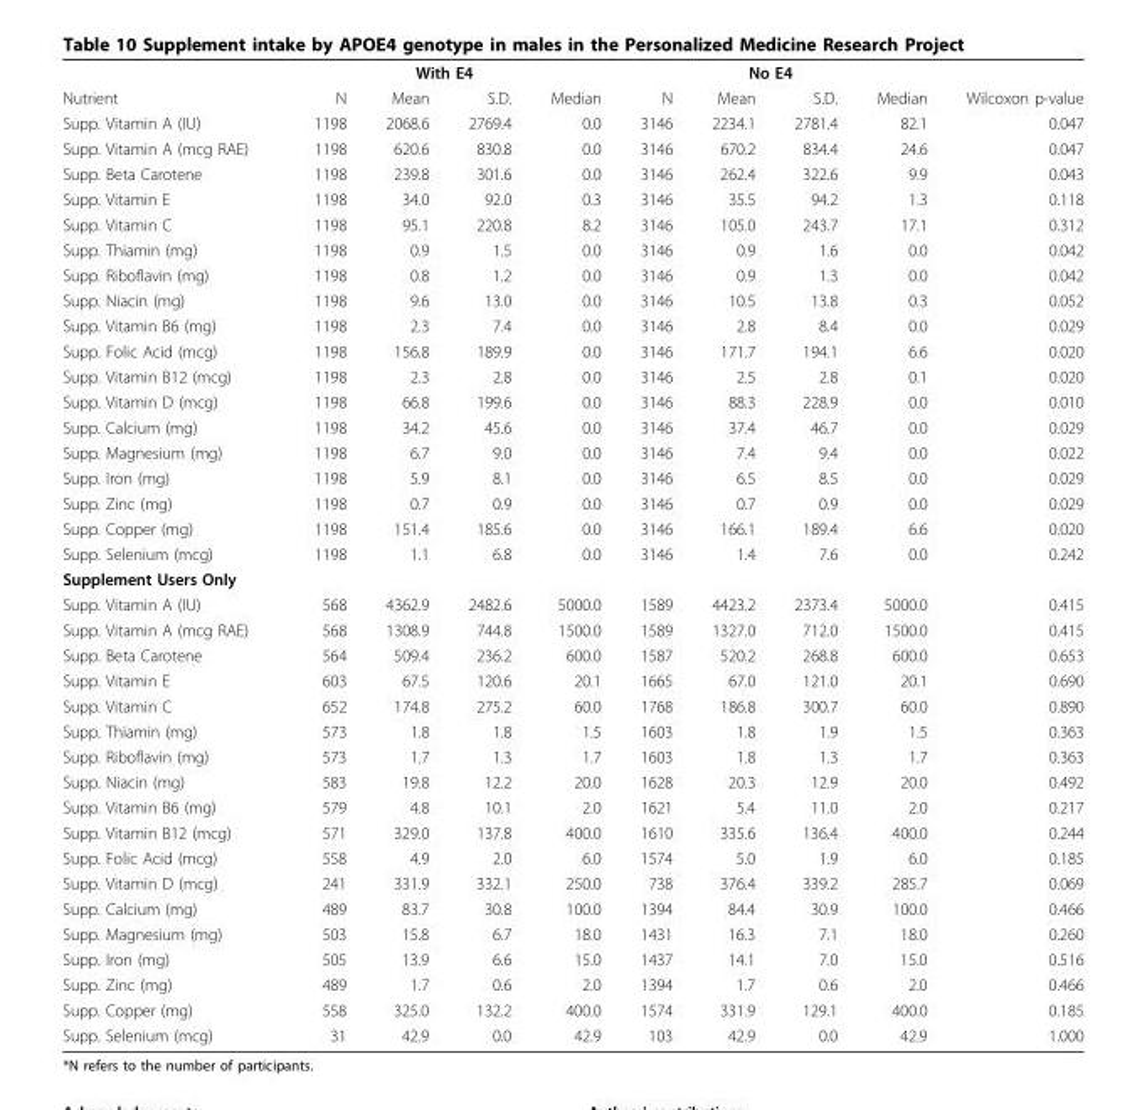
<table><thead><tr><td rowspan="2">Nutrient</td><td colspan="4">With E4</td><td colspan="4">No E4</td><td rowspan="2">Wilcoxon p-value</td></tr><tr><td>N</td><td>Mean</td><td>S.D.</td><td>Median</td><td>N</td><td>Mean</td><td>S.D.</td><td>Median</td></tr></thead><tbody><tr><td>Supp. Vitamin A (IU)</td><td>1198</td><td>2068.6</td><td>2769.4</td><td>0.0</td><td>3146</td><td>2234.1</td><td>2781.4</td><td>82.1</td><td>0.047</td></tr><tr><td>Supp. Vitamin A (mcg RAE)</td><td>1198</td><td>620.6</td><td>830.8</td><td>0.0</td><td>3146</td><td>670.2</td><td>834.4</td><td>24.6</td><td>0.047</td></tr><tr><td>Supp. Beta Carotene</td><td>1198</td><td>239.8</td><td>301.6</td><td>0.0</td><td>3146</td><td>262.4</td><td>322.6</td><td>9.9</td><td>0.043</td></tr><tr><td>Supp. Vitamin E</td><td>1198</td><td>34.0</td><td>92.0</td><td>0.3</td><td>3146</td><td>35.5</td><td>94.2</td><td>1.3</td><td>0.118</td></tr><tr><td>Supp. Vitamin C</td><td>1198</td><td>95.1</td><td>220.8</td><td>8.2</td><td>3146</td><td>105.0</td><td>243.7</td><td>17.1</td><td>0.312</td></tr><tr><td>Supp. Thiamin (mg)</td><td>1198</td><td>0.9</td><td>1.5</td><td>0.0</td><td>3146</td><td>0.9</td><td>1.6</td><td>0.0</td><td>0.042</td></tr><tr><td>Supp. Riboflavin (mg)</td><td>1198</td><td>0.8</td><td>1.2</td><td>0.0</td><td>3146</td><td>0.9</td><td>1.3</td><td>0.0</td><td>0.042</td></tr><tr><td>Supp. Niacin (mg)</td><td>1198</td><td>9.6</td><td>13.0</td><td>0.0</td><td>3146</td><td>10.5</td><td>13.8</td><td>0.3</td><td>0.052</td></tr><tr><td>Supp. Vitamin B6 (mg)</td><td>1198</td><td>2.3</td><td>7.4</td><td>0.0</td><td>3146</td><td>2.8</td><td>8.4</td><td>0.0</td><td>0.029</td></tr><tr><td>Supp. Folic Acid (mcg)</td><td>1198</td><td>156.8</td><td>189.9</td><td>0.0</td><td>3146</td><td>171.7</td><td>194.1</td><td>6.6</td><td>0.020</td></tr><tr><td>Supp. Vitamin B12 (mcg)</td><td>1198</td><td>2.3</td><td>2.8</td><td>0.0</td><td>3146</td><td>2.5</td><td>2.8</td><td>0.1</td><td>0.020</td></tr><tr><td>Supp. Vitamin D (mcg)</td><td>1198</td><td>66.8</td><td>199.6</td><td>0.0</td><td>3146</td><td>88.3</td><td>228.9</td><td>0.0</td><td>0.010</td></tr><tr><td>Supp. Calcium (mg)</td><td>1198</td><td>34.2</td><td>45.6</td><td>0.0</td><td>3146</td><td>37.4</td><td>46.7</td><td>0.0</td><td>0.029</td></tr><tr><td>Supp. Magnesium (mg)</td><td>1198</td><td>6.7</td><td>9.0</td><td>0.0</td><td>3146</td><td>7.4</td><td>9.4</td><td>0.0</td><td>0.022</td></tr><tr><td>Supp. Iron (mg)</td><td>1198</td><td>5.9</td><td>8.1</td><td>0.0</td><td>3146</td><td>6.5</td><td>8.5</td><td>0.0</td><td>0.029</td></tr><tr><td>Supp. Zinc (mg)</td><td>1198</td><td>0.7</td><td>0.9</td><td>0.0</td><td>3146</td><td>0.7</td><td>0.9</td><td>0.0</td><td>0.029</td></tr><tr><td>Supp. Copper (mg)</td><td>1198</td><td>151.4</td><td>185.6</td><td>0.0</td><td>3146</td><td>166.1</td><td>189.4</td><td>6.6</td><td>0.020</td></tr><tr><td>Supp. Selenium (mcg)</td><td>1198</td><td>1.1</td><td>6.8</td><td>0.0</td><td>3146</td><td>1.4</td><td>7.6</td><td>0.0</td><td>0.242</td></tr><tr><td colspan="10">Supplement Users Only</td></tr><tr><td>Supp. Vitamin A (IU)</td><td>568</td><td>4362.9</td><td>2482.6</td><td>5000.0</td><td>1589</td><td>4423.2</td><td>2373.4</td><td>5000.0</td><td>0.415</td></tr><tr><td>Supp. Vitamin A (mcg RAE)</td><td>568</td><td>1308.9</td><td>744.8</td><td>1500.0</td><td>1589</td><td>1327.0</td><td>712.0</td><td>1500.0</td><td>0.415</td></tr><tr><td>Supp. Beta Carotene</td><td>564</td><td>509.4</td><td>236.2</td><td>600.0</td><td>1587</td><td>520.2</td><td>268.8</td><td>600.0</td><td>0.653</td></tr><tr><td>Supp. Vitamin E</td><td>603</td><td>67.5</td><td>120.6</td><td>20.1</td><td>1665</td><td>67.0</td><td>121.0</td><td>20.1</td><td>0.690</td></tr><tr><td>Supp. Vitamin C</td><td>652</td><td>174.8</td><td>275.2</td><td>60.0</td><td>1768</td><td>186.8</td><td>300.7</td><td>60.0</td><td>0.890</td></tr><tr><td>Supp. Thiamin (mg)</td><td>573</td><td>1.8</td><td>1.8</td><td>1.5</td><td>1603</td><td>1.8</td><td>1.9</td><td>1.5</td><td>0.363</td></tr><tr><td>Supp. Riboflavin (mg)</td><td>573</td><td>1.7</td><td>1.3</td><td>1.7</td><td>1603</td><td>1.8</td><td>1.3</td><td>1.7</td><td>0.363</td></tr><tr><td>Supp. Niacin (mg)</td><td>583</td><td>19.8</td><td>12.2</td><td>20.0</td><td>1628</td><td>20.3</td><td>12.9</td><td>20.0</td><td>0.492</td></tr><tr><td>Supp. Vitamin B6 (mg)</td><td>579</td><td>4.8</td><td>10.1</td><td>2.0</td><td>1621</td><td>5.4</td><td>11.0</td><td>2.0</td><td>0.217</td></tr><tr><td>Supp. Vitamin B12 (mcg)</td><td>571</td><td>329.0</td><td>137.8</td><td>400.0</td><td>1610</td><td>335.6</td><td>136.4</td><td>400.0</td><td>0.244</td></tr><tr><td>Supp. Folic Acid (mcg)</td><td>558</td><td>4.9</td><td>2.0</td><td>6.0</td><td>1574</td><td>5.0</td><td>1.9</td><td>6.0</td><td>0.185</td></tr><tr><td>Supp. Vitamin D (mcg)</td><td>241</td><td>331.9</td><td>332.1</td><td>250.0</td><td>738</td><td>376.4</td><td>339.2</td><td>285.7</td><td>0.069</td></tr><tr><td>Supp. Calcium (mg)</td><td>489</td><td>83.7</td><td>30.8</td><td>100.0</td><td>1394</td><td>84.4</td><td>30.9</td><td>100.0</td><td>0.466</td></tr><tr><td>Supp. Magnesium (mg)</td><td>503</td><td>15.8</td><td>6.7</td><td>18.0</td><td>1431</td><td>16.3</td><td>7.1</td><td>18.0</td><td>0.260</td></tr><tr><td>Supp. Iron (mg)</td><td>505</td><td>13.9</td><td>6.6</td><td>15.0</td><td>1437</td><td>14.1</td><td>7.0</td><td>15.0</td><td>0.516</td></tr><tr><td>Supp. Zinc (mg)</td><td>489</td><td>1.7</td><td>0.6</td><td>2.0</td><td>1394</td><td>1.7</td><td>0.6</td><td>2.0</td><td>0.466</td></tr><tr><td>Supp. Copper (mg)</td><td>558</td><td>325.0</td><td>132.2</td><td>400.0</td><td>1574</td><td>331.9</td><td>129.1</td><td>400.0</td><td>0.185</td></tr><tr><td>Supp. Selenium (mcg)</td><td>31</td><td>42.9</td><td>0.0</td><td>42.9</td><td>103</td><td>42.9</td><td>0.0</td><td>42.9</td><td>1.000</td></tr></tbody></table>